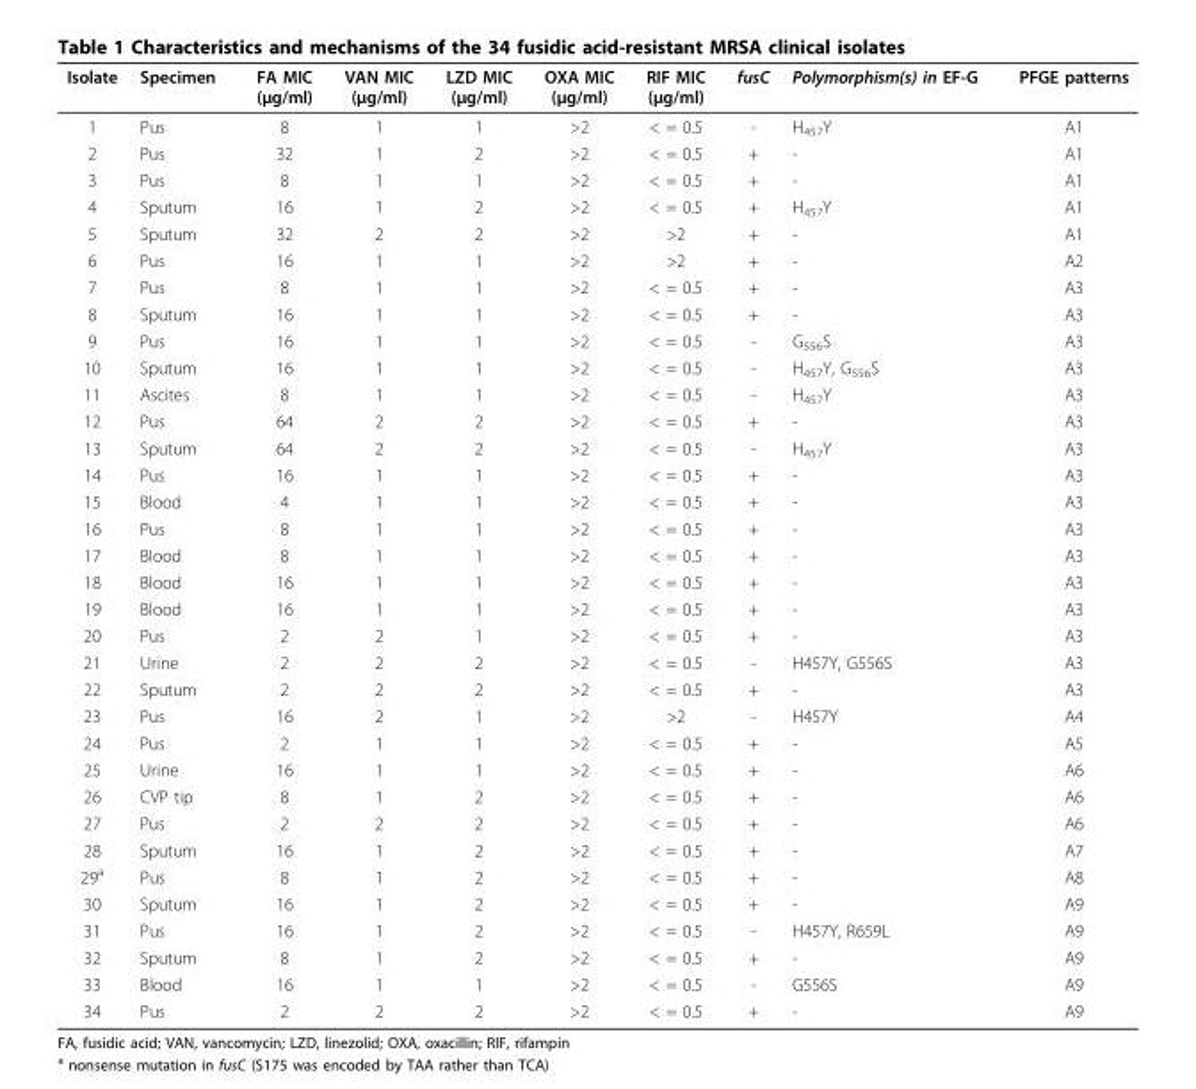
<table><thead><tr><td>Isolate</td><td>Specimen</td><td>FA MIC (μg/ml)</td><td>VAN MIC (μg/ml)</td><td>LZD MIC (μg/ml)</td><td>OXA MIC (μg/ml)</td><td>RIF MIC (μg/ml)</td><td>fusC</td><td>Polymorphism(s) in EF-G</td><td>PFGE patterns</td></tr></thead><tbody><tr><td>1</td><td>Pus</td><td>8</td><td>1</td><td>1</td><td>&gt;2</td><td>&lt; = 0.5</td><td>-</td><td>H<sub>457</sub>Y</td><td>A1</td></tr><tr><td>2</td><td>Pus</td><td>32</td><td>1</td><td>2</td><td>&gt;2</td><td>&lt; = 0.5</td><td>+</td><td>-</td><td>A1</td></tr><tr><td>3</td><td>Pus</td><td>8</td><td>1</td><td>1</td><td>&gt;2</td><td>&lt; = 0.5</td><td>+</td><td>-</td><td>A1</td></tr><tr><td>4</td><td>Sputum</td><td>16</td><td>1</td><td>2</td><td>&gt;2</td><td>&lt; = 0.5</td><td>+</td><td>H<sub>457</sub>Y</td><td>A1</td></tr><tr><td>5</td><td>Sputum</td><td>32</td><td>2</td><td>2</td><td>&gt;2</td><td>&gt;2</td><td>+</td><td>-</td><td>A1</td></tr><tr><td>6</td><td>Pus</td><td>16</td><td>1</td><td>1</td><td>&gt;2</td><td>&gt;2</td><td>+</td><td>-</td><td>A2</td></tr><tr><td>7</td><td>Pus</td><td>8</td><td>1</td><td>1</td><td>&gt;2</td><td>&lt; = 0.5</td><td>+</td><td>-</td><td>A3</td></tr><tr><td>8</td><td>Sputum</td><td>16</td><td>1</td><td>1</td><td>&gt;2</td><td>&lt; = 0.5</td><td>+</td><td>-</td><td>A3</td></tr><tr><td>9</td><td>Pus</td><td>16</td><td>1</td><td>1</td><td>&gt;2</td><td>&lt; = 0.5</td><td>-</td><td>G<sub>556</sub>S</td><td>A3</td></tr><tr><td>10</td><td>Sputum</td><td>16</td><td>1</td><td>1</td><td>&gt;2</td><td>&lt; = 0.5</td><td>-</td><td>H<sub>457</sub>Y, G<sub>556</sub>S</td><td>A3</td></tr><tr><td>11</td><td>Ascites</td><td>8</td><td>1</td><td>1</td><td>&gt;2</td><td>&lt; = 0.5</td><td>-</td><td>H<sub>457</sub>Y</td><td>A3</td></tr><tr><td>12</td><td>Pus</td><td>64</td><td>2</td><td>2</td><td>&gt;2</td><td>&lt; = 0.5</td><td>+</td><td>-</td><td>A3</td></tr><tr><td>13</td><td>Sputum</td><td>64</td><td>2</td><td>2</td><td>&gt;2</td><td>&lt; = 0.5</td><td>-</td><td>H<sub>457</sub>Y</td><td>A3</td></tr><tr><td>14</td><td>Pus</td><td>16</td><td>1</td><td>1</td><td>&gt;2</td><td>&lt; = 0.5</td><td>+</td><td>-</td><td>A3</td></tr><tr><td>15</td><td>Blood</td><td>4</td><td>1</td><td>1</td><td>&gt;2</td><td>&lt; = 0.5</td><td>+</td><td>-</td><td>A3</td></tr><tr><td>16</td><td>Pus</td><td>8</td><td>1</td><td>1</td><td>&gt;2</td><td>&lt; = 0.5</td><td>+</td><td>-</td><td>A3</td></tr><tr><td>17</td><td>Blood</td><td>8</td><td>1</td><td>1</td><td>&gt;2</td><td>&lt; = 0.5</td><td>+</td><td>-</td><td>A3</td></tr><tr><td>18</td><td>Blood</td><td>16</td><td>1</td><td>1</td><td>&gt;2</td><td>&lt; = 0.5</td><td>+</td><td>-</td><td>A3</td></tr><tr><td>19</td><td>Blood</td><td>16</td><td>1</td><td>1</td><td>&gt;2</td><td>&lt; = 0.5</td><td>+</td><td>-</td><td>A3</td></tr><tr><td>20</td><td>Pus</td><td>2</td><td>2</td><td>1</td><td>&gt;2</td><td>&lt; = 0.5</td><td>+</td><td>-</td><td>A3</td></tr><tr><td>21</td><td>Urine</td><td>2</td><td>2</td><td>2</td><td>&gt;2</td><td>&lt; = 0.5</td><td>-</td><td>H457Y, G556S</td><td>A3</td></tr><tr><td>22</td><td>Sputum</td><td>2</td><td>2</td><td>2</td><td>&gt;2</td><td>&lt; = 0.5</td><td>+</td><td>-</td><td>A3</td></tr><tr><td>23</td><td>Pus</td><td>16</td><td>2</td><td>1</td><td>&gt;2</td><td>&gt;2</td><td>-</td><td>H457Y</td><td>A4</td></tr><tr><td>24</td><td>Pus</td><td>2</td><td>1</td><td>1</td><td>&gt;2</td><td>&lt; = 0.5</td><td>+</td><td>-</td><td>A5</td></tr><tr><td>25</td><td>Urine</td><td>16</td><td>1</td><td>1</td><td>&gt;2</td><td>&lt; = 0.5</td><td>+</td><td>-</td><td>A6</td></tr><tr><td>26</td><td>CVP tip</td><td>8</td><td>1</td><td>2</td><td>&gt;2</td><td>&lt; = 0.5</td><td>+</td><td>-</td><td>A6</td></tr><tr><td>27</td><td>Pus</td><td>2</td><td>2</td><td>2</td><td>&gt;2</td><td>&lt; = 0.5</td><td>+</td><td>-</td><td>A6</td></tr><tr><td>28</td><td>Sputum</td><td>16</td><td>1</td><td>2</td><td>&gt;2</td><td>&lt; = 0.5</td><td>+</td><td>-</td><td>A7</td></tr><tr><td>29<sup>a</sup></td><td>Pus</td><td>8</td><td>1</td><td>2</td><td>&gt;2</td><td>&lt; = 0.5</td><td>+</td><td>-</td><td>A8</td></tr><tr><td>30</td><td>Sputum</td><td>16</td><td>1</td><td>2</td><td>&gt;2</td><td>&lt; = 0.5</td><td>+</td><td>-</td><td>A9</td></tr><tr><td>31</td><td>Pus</td><td>16</td><td>1</td><td>2</td><td>&gt;2</td><td>&lt; = 0.5</td><td>-</td><td>H457Y, R659L</td><td>A9</td></tr><tr><td>32</td><td>Sputum</td><td>8</td><td>1</td><td>2</td><td>&gt;2</td><td>&lt; = 0.5</td><td>+</td><td>-</td><td>A9</td></tr><tr><td>33</td><td>Blood</td><td>16</td><td>1</td><td>1</td><td>&gt;2</td><td>&lt; = 0.5</td><td>-</td><td>G556S</td><td>A9</td></tr><tr><td>34</td><td>Pus</td><td>2</td><td>2</td><td>2</td><td>&gt;2</td><td>&lt; = 0.5</td><td>+</td><td>-</td><td>A9</td></tr></tbody></table>